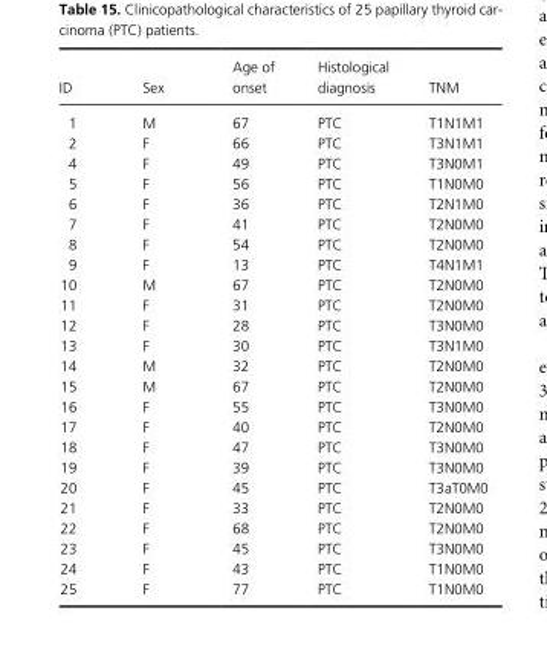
<table><thead><tr><td>ID</td><td>Sex</td><td>Age of onset</td><td>Histological diagnosis</td><td>TNM</td></tr></thead><tbody><tr><td>1</td><td>M</td><td>67</td><td>PTC</td><td>T1N1M1</td></tr><tr><td>2</td><td>F</td><td>66</td><td>PTC</td><td>T3N1M1</td></tr><tr><td>4</td><td>F</td><td>49</td><td>PTC</td><td>T3N0M1</td></tr><tr><td>5</td><td>F</td><td>56</td><td>PTC</td><td>T1N0M0</td></tr><tr><td>6</td><td>F</td><td>36</td><td>PTC</td><td>T2N1M0</td></tr><tr><td>7</td><td>F</td><td>41</td><td>PTC</td><td>T2N0M0</td></tr><tr><td>8</td><td>F</td><td>54</td><td>PTC</td><td>T2N0M0</td></tr><tr><td>9</td><td>F</td><td>13</td><td>PTC</td><td>T4N1M1</td></tr><tr><td>10</td><td>M</td><td>67</td><td>PTC</td><td>T2N0M0</td></tr><tr><td>11</td><td>F</td><td>31</td><td>PTC</td><td>T2N0M0</td></tr><tr><td>12</td><td>F</td><td>28</td><td>PTC</td><td>T3N0M0</td></tr><tr><td>13</td><td>F</td><td>30</td><td>PTC</td><td>T3N1M0</td></tr><tr><td>14</td><td>M</td><td>32</td><td>PTC</td><td>T2N0M0</td></tr><tr><td>15</td><td>M</td><td>67</td><td>PTC</td><td>T2N0M0</td></tr><tr><td>16</td><td>F</td><td>55</td><td>PTC</td><td>T3N0M0</td></tr><tr><td>17</td><td>F</td><td>40</td><td>PTC</td><td>T2N0M0</td></tr><tr><td>18</td><td>F</td><td>47</td><td>PTC</td><td>T3N0M0</td></tr><tr><td>19</td><td>F</td><td>39</td><td>PTC</td><td>T3N0M0</td></tr><tr><td>20</td><td>F</td><td>45</td><td>PTC</td><td>T3aT0M0</td></tr><tr><td>21</td><td>F</td><td>33</td><td>PTC</td><td>T2N0M0</td></tr><tr><td>22</td><td>F</td><td>68</td><td>PTC</td><td>T2N0M0</td></tr><tr><td>23</td><td>F</td><td>45</td><td>PTC</td><td>T3N0M0</td></tr><tr><td>24</td><td>F</td><td>43</td><td>PTC</td><td>T1N0M0</td></tr><tr><td>25</td><td>F</td><td>77</td><td>PTC</td><td>T1N0M0</td></tr></tbody></table>